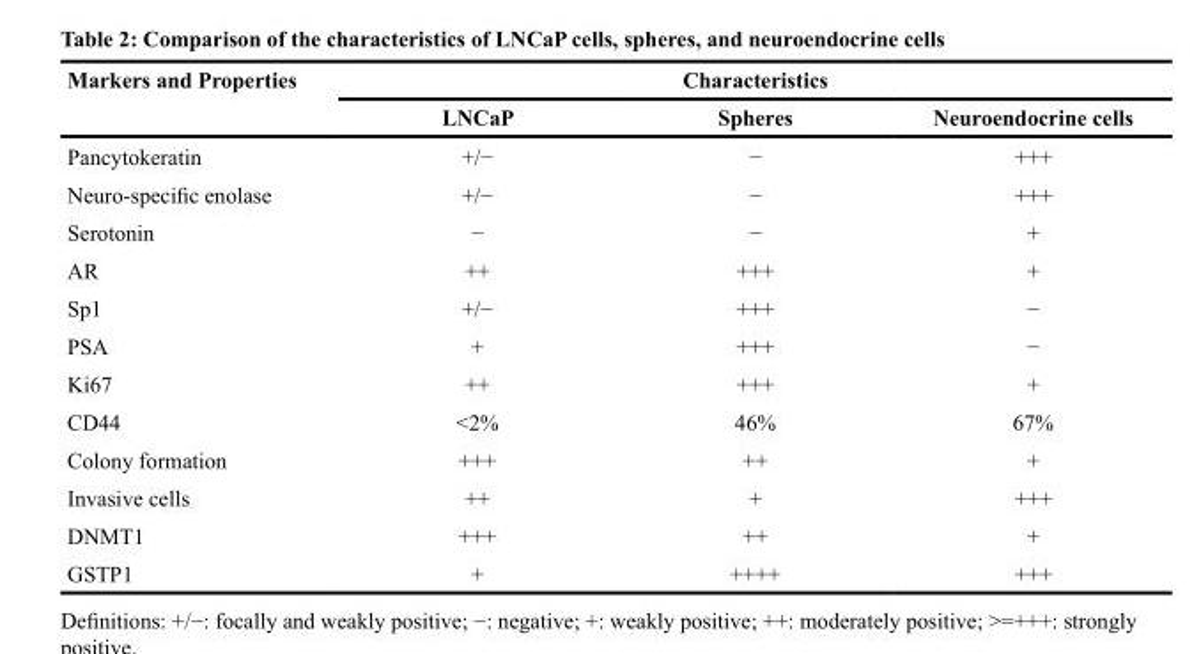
<table><thead><tr><td rowspan="2">Markers and Properties</td><td colspan="3">Characteristics</td></tr><tr><td>LNCaP</td><td>Spheres</td><td>Neuroendocrine cells</td></tr></thead><tbody><tr><td>Pancytokeratin</td><td>+/−</td><td>−</td><td>+++</td></tr><tr><td>Neuro-specific enolase</td><td>+/−</td><td>−</td><td>+++</td></tr><tr><td>Serotonin</td><td>−</td><td>−</td><td>+</td></tr><tr><td>AR</td><td>++</td><td>+++</td><td>+</td></tr><tr><td>Sp1</td><td>+/−</td><td>+++</td><td>−</td></tr><tr><td>PSA</td><td>+</td><td>+++</td><td>−</td></tr><tr><td>Ki67</td><td>++</td><td>+++</td><td>+</td></tr><tr><td>CD44</td><td>&lt;2%</td><td>46%</td><td>67%</td></tr><tr><td>Colony formation</td><td>+++</td><td>++</td><td>+</td></tr><tr><td>Invasive cells</td><td>++</td><td>+</td><td>+++</td></tr><tr><td>DNMT1</td><td>+++</td><td>++</td><td>+</td></tr><tr><td>GSTP1</td><td>+</td><td>++++</td><td>+++</td></tr></tbody></table>